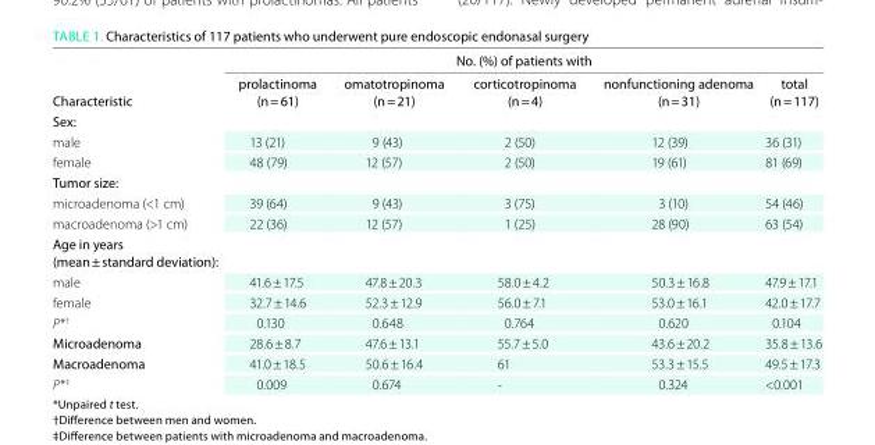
<table><thead><tr><td rowspan="2">Characteristic</td><td colspan="5">no. (%) of patients with</td></tr><tr><td>prolactinoma (n = 61)</td><td>omatotropinoma (n = 21)</td><td>corticotropinoma (n = 4)</td><td>nonfunctioning adenoma (n = 31)</td><td>total (n = 117)</td></tr></thead><tbody><tr><td colspan="6">sex:</td></tr><tr><td>male</td><td>13 (21)</td><td>9 (43)</td><td>2 (50)</td><td>12 (39)</td><td>36 (31)</td></tr><tr><td>female</td><td>48 (79)</td><td>12 (57)</td><td>2 (50)</td><td>19 (61)</td><td>81 (69)</td></tr><tr><td colspan="6">tumor size:</td></tr><tr><td>microadenoma (&lt;1 cm)</td><td>39 (64)</td><td>9 (43)</td><td>3 (75)</td><td>3 (10)</td><td>54 (46)</td></tr><tr><td>macroadenoma (&gt;1 cm)</td><td>22 (36)</td><td>12 (57)</td><td>1 (25)</td><td>28 (90)</td><td>63 (54)</td></tr><tr><td colspan="6">Age in years (mean ± standard deviation):</td></tr><tr><td>male</td><td>41.6 ± 17.5</td><td>47.8 ± 20.3</td><td>58.0 ± 4.2</td><td>50.3 ± 16.8</td><td>47.9 ± 17.1</td></tr><tr><td>female</td><td>32.7 ± 14.6</td><td>52.3 ± 12.9</td><td>56.0 ± 7.1</td><td>53.0 ± 16.1</td><td>42.0 ± 17.7</td></tr><tr><td>P*<sup>†</sup></td><td>0.130</td><td>0.648</td><td>0.764</td><td>0.620</td><td>0.104</td></tr><tr><td>Microadenoma</td><td>28.6 ± 8.7</td><td>47.6 ± 13.1</td><td>55.7 ± 5.0</td><td>43.6 ± 20.2</td><td>35.8 ± 13.6</td></tr><tr><td>Macroadenoma</td><td>41.0 ± 18.5</td><td>50.6 ± 16.4</td><td>61</td><td>53.3 ± 15.5</td><td>49.5 ± 17.3</td></tr><tr><td>P*<sup>‡</sup></td><td>0.009</td><td>0.674</td><td>-</td><td>0.324</td><td>&lt;0.001</td></tr></tbody></table>